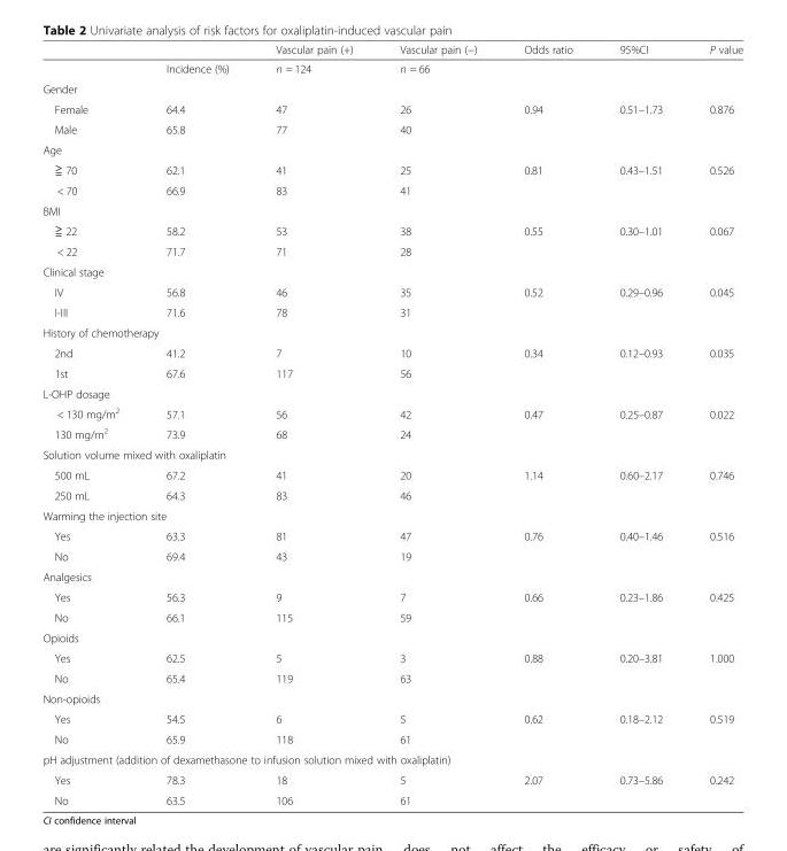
<table><thead><tr><td></td><td></td><td>Vascular pain (+)</td><td>Vascular pain (−)</td><td>Odds ratio</td><td>95%CI</td><td>P value</td></tr></thead><tbody><tr><td></td><td>Incidence (%)</td><td>n = 124</td><td>n = 66</td><td></td><td></td><td></td></tr><tr><td colspan="7">Gender</td></tr><tr><td>Female</td><td>64.4</td><td>47</td><td>26</td><td rowspan="2">0.94</td><td rowspan="2">0.51–1.73</td><td rowspan="2">0.876</td></tr><tr><td>Male</td><td>65.8</td><td>77</td><td>40</td></tr><tr><td colspan="7">Age</td></tr><tr><td>≧ 70</td><td>62.1</td><td>41</td><td>25</td><td rowspan="2">0.81</td><td rowspan="2">0.43–1.51</td><td rowspan="2">0.526</td></tr><tr><td>&lt; 70</td><td>66.9</td><td>83</td><td>41</td></tr><tr><td colspan="7">BMI</td></tr><tr><td>≧ 22</td><td>58.2</td><td>53</td><td>38</td><td rowspan="2">0.55</td><td rowspan="2">0.30–1.01</td><td rowspan="2">0.067</td></tr><tr><td>&lt; 22</td><td>71.7</td><td>71</td><td>28</td></tr><tr><td colspan="7">Clinical stage</td></tr><tr><td>IV</td><td>56.8</td><td>46</td><td>35</td><td rowspan="2">0.52</td><td rowspan="2">0.29–0.96</td><td rowspan="2">0.045</td></tr><tr><td>I-III</td><td>71.6</td><td>78</td><td>31</td></tr><tr><td colspan="7">History of chemotherapy</td></tr><tr><td>2nd</td><td>41.2</td><td>7</td><td>10</td><td>0.34</td><td>0.12–0.93</td><td>0.035</td></tr><tr><td>1st</td><td>67.6</td><td>117</td><td>56</td><td></td><td></td><td></td></tr><tr><td colspan="7">L-OHP dosage</td></tr><tr><td>&lt; 130 mg/m<sup>2</sup></td><td>57.1</td><td>56</td><td>42</td><td>0.47</td><td>0.25–0.87</td><td>0.022</td></tr><tr><td>130 mg/m<sup>2</sup></td><td>73.9</td><td>68</td><td>24</td><td></td><td></td><td></td></tr><tr><td colspan="7">Solution volume mixed with oxaliplatin</td></tr><tr><td>500 mL</td><td>67.2</td><td>41</td><td>20</td><td>1.14</td><td>0.60–2.17</td><td>0.746</td></tr><tr><td>250 mL</td><td>64.3</td><td>83</td><td>46</td><td></td><td></td><td></td></tr><tr><td colspan="7">Warming the injection site</td></tr><tr><td>Yes</td><td>63.3</td><td>81</td><td>47</td><td>0.76</td><td>0.40–1.46</td><td>0.516</td></tr><tr><td>No</td><td>69.4</td><td>43</td><td>19</td><td></td><td></td><td></td></tr><tr><td colspan="7">Analgesics</td></tr><tr><td>Yes</td><td>56.3</td><td>9</td><td>7</td><td>0.66</td><td>0.23–1.86</td><td>0.425</td></tr><tr><td>No</td><td>66.1</td><td>115</td><td>59</td><td></td><td></td><td></td></tr><tr><td colspan="7">Opioids</td></tr><tr><td>Yes</td><td>62.5</td><td>5</td><td>3</td><td>0.88</td><td>0.20–3.81</td><td>1.000</td></tr><tr><td>No</td><td>65.4</td><td>119</td><td>63</td><td></td><td></td><td></td></tr><tr><td colspan="7">Non-opioids</td></tr><tr><td>Yes</td><td>54.5</td><td>6</td><td>5</td><td>0.62</td><td>0.18–2.12</td><td>0.519</td></tr><tr><td>No</td><td>65.9</td><td>118</td><td>61</td><td></td><td></td><td></td></tr><tr><td colspan="7">pH adjustment (addition of dexamethasone to infusion solution mixed with oxaliplatin)</td></tr><tr><td>Yes</td><td>78.3</td><td>18</td><td>5</td><td>2.07</td><td>0.73–5.86</td><td>0.242</td></tr><tr><td>No</td><td>63.5</td><td>106</td><td>61</td><td></td><td></td><td></td></tr></tbody></table>